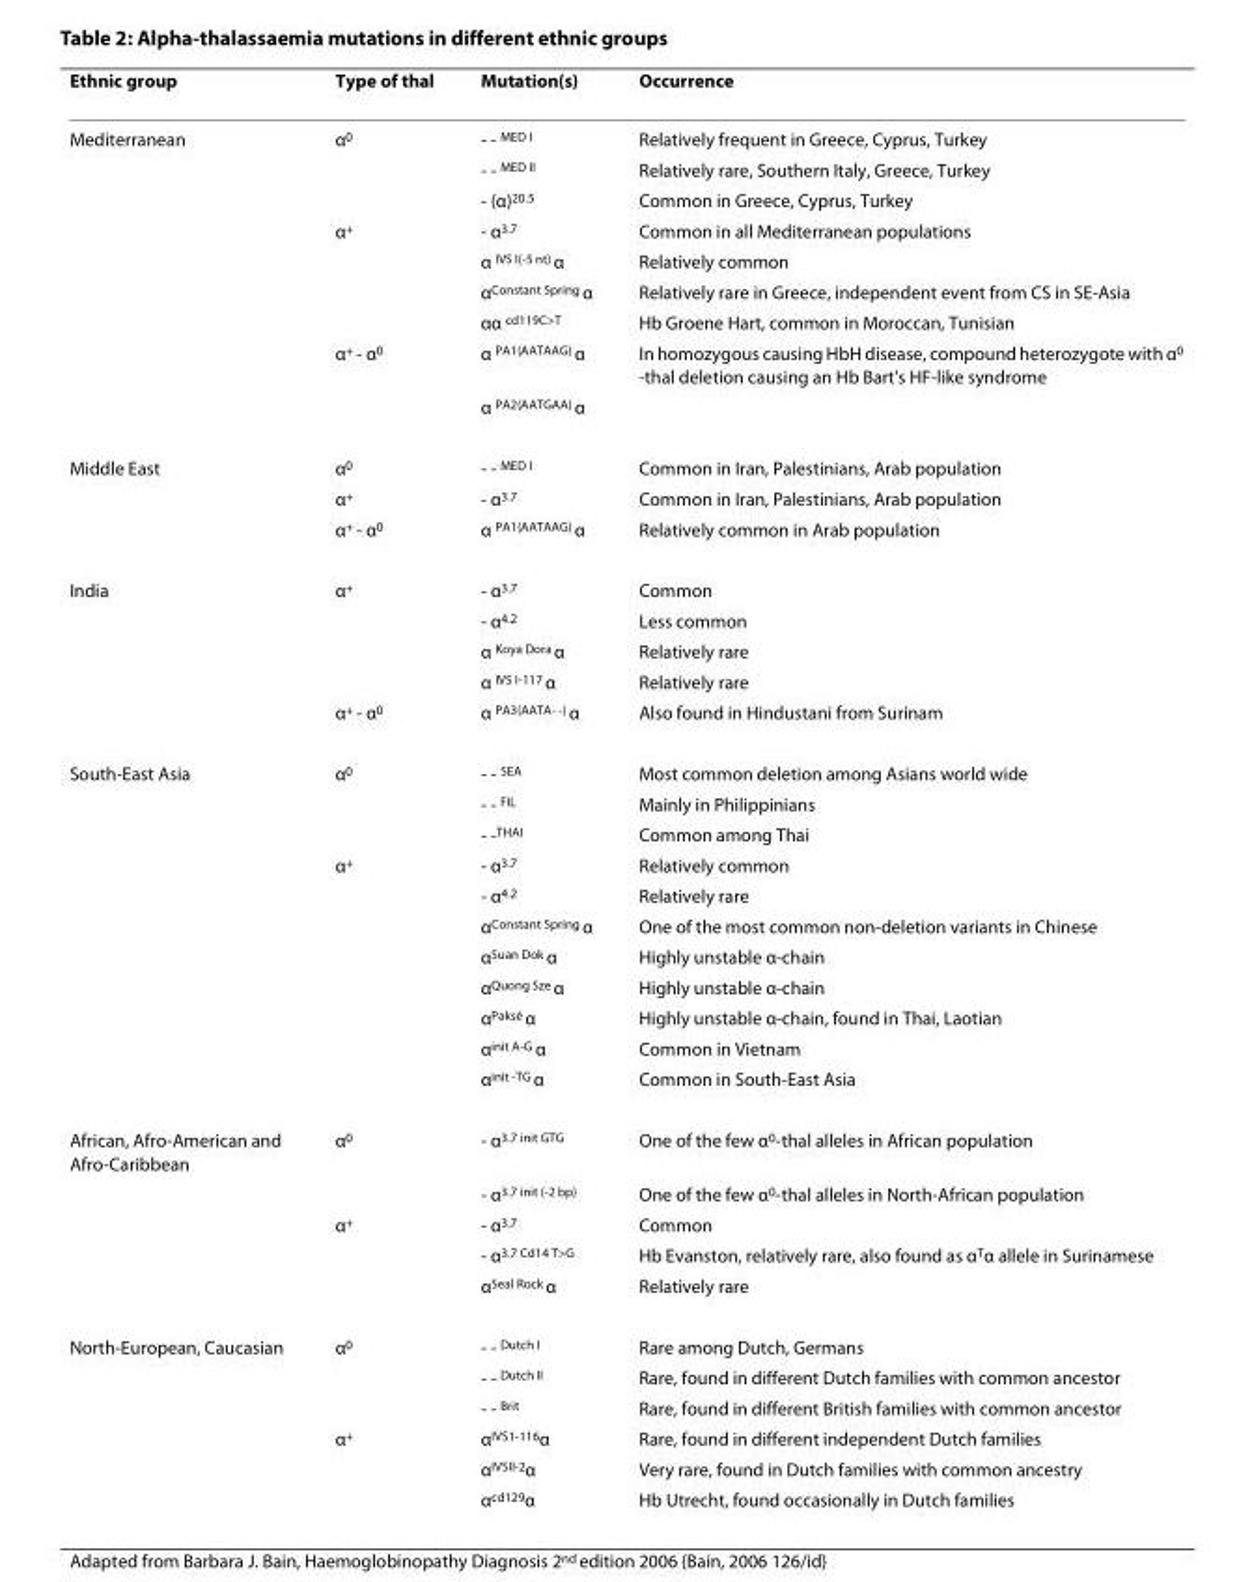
<table><thead><tr><td>Ethnic group</td><td>Type of thal</td><td>Mutation(s)</td><td>Occurrence</td></tr></thead><tbody><tr><td rowspan="9">Mediterranean</td><td>α<sup>0</sup></td><td>- - <sup>MED I</sup></td><td>Relatively frequent in Greece, Cyprus, Turkey</td></tr><tr><td></td><td>- - <sup>MED II</sup></td><td>Relatively rare, Southern Italy, Greece, Turkey</td></tr><tr><td></td><td>- (α)<sup>20.5</sup></td><td>Common in Greece, Cyprus, Turkey</td></tr><tr><td>α<sup>+</sup></td><td>- α<sup>3.7</sup></td><td>Common in all Mediterranean populations</td></tr><tr><td></td><td>α <sup>IVS I(-5 nt)</sup> α</td><td>Relatively common</td></tr><tr><td></td><td>α<sup>Constant Spring</sup> α</td><td>Relatively rare in Greece, independent event from CS in SE-Asia</td></tr><tr><td></td><td>αα <sup>cd119C&gt;T</sup></td><td>Hb Groene Hart, common in Moroccan, Tunisian</td></tr><tr><td>α<sup>+</sup> - α<sup>0</sup></td><td>α <sup>PA1(AATAAG)</sup> α</td><td>In homozygous causing HbH disease, compound heterozygote with α<sup>0</sup> -thal deletion causing an Hb Bart&#x27;s HF-like syndrome</td></tr><tr><td></td><td>α <sup>PA2(AATGAA)</sup> α</td><td></td></tr><tr><td rowspan="3">Middle East</td><td>α<sup>0</sup></td><td>- - <sup>MED I</sup></td><td>Common in Iran, Palestinians, Arab population</td></tr><tr><td>α<sup>+</sup></td><td>- α<sup>3.7</sup></td><td>Common in Iran, Palestinians, Arab population</td></tr><tr><td>α<sup>+</sup> - α<sup>0</sup></td><td>α <sup>PA1(AATAAG)</sup> α</td><td>Relatively common in Arab population</td></tr><tr><td rowspan="5">India</td><td>α<sup>+</sup></td><td>- α<sup>3.7</sup></td><td>Common</td></tr><tr><td></td><td>- α<sup>4.2</sup></td><td>Less common</td></tr><tr><td></td><td>α <sup>Koya Dora</sup> α</td><td>Relatively rare</td></tr><tr><td></td><td>α <sup>IVS I-117</sup> α</td><td>Relatively rare</td></tr><tr><td>α<sup>+</sup> - α<sup>0</sup></td><td>α <sup>PA3(AATA- -)</sup> α</td><td>Also found in Hindustani from Surinam</td></tr><tr><td rowspan="11">South-East Asia</td><td>α<sup>0</sup></td><td>- - <sup>SEA</sup></td><td>Most common deletion among Asians world wide</td></tr><tr><td></td><td>- - <sup>FIL</sup></td><td>Mainly in Philippinians</td></tr><tr><td></td><td>- -<sup>THAI</sup></td><td>Common among Thai</td></tr><tr><td>α<sup>+</sup></td><td>- α<sup>3.7</sup></td><td>Relatively common</td></tr><tr><td></td><td>- α<sup>4.2</sup></td><td>Relatively rare</td></tr><tr><td></td><td>α<sup>Constant Spring</sup> α</td><td>One of the most common non-deletion variants in Chinese</td></tr><tr><td></td><td>α<sup>Suan Dok</sup> α</td><td>Highly unstable α-chain</td></tr><tr><td></td><td>α<sup>Quong Sze</sup> α</td><td>Highly unstable α-chain</td></tr><tr><td></td><td>α<sup>Paksé</sup> α</td><td>Highly unstable α-chain, found in Thai, Laotian</td></tr><tr><td></td><td>α<sup>init A-G</sup> α</td><td>Common in Vietnam</td></tr><tr><td></td><td>α<sup>init -TG</sup> α</td><td>Common in South-East Asia</td></tr><tr><td rowspan="5">African, Afro-American and Afro-Caribbean</td><td>α<sup>0</sup></td><td>- α<sup>3.7 init GTG</sup></td><td>One of the few α<sup>0</sup>-thal alleles in African population</td></tr><tr><td></td><td>- α<sup>3.7 init (-2 bp)</sup></td><td>One of the few α<sup>0</sup>-thal alleles in North-African population</td></tr><tr><td>α<sup>+</sup></td><td>- α<sup>3.7</sup></td><td>Common</td></tr><tr><td></td><td>- α<sup>3.7 Cd14 T&gt;G</sup></td><td>Hb Evanston, relatively rare, also found as α<sup>T</sup>α allele in Surinamese</td></tr><tr><td></td><td>α<sup>Seal Rock</sup> α</td><td>Relatively rare</td></tr><tr><td rowspan="6">North-European, Caucasian</td><td>α<sup>0</sup></td><td>- - <sup>Dutch I</sup></td><td>Rare among Dutch, Germans</td></tr><tr><td></td><td>- - <sup>Dutch II</sup></td><td>Rare, found in different Dutch families with common ancestor</td></tr><tr><td></td><td>- - <sup>Brit</sup></td><td>Rare, found in different British families with common ancestor</td></tr><tr><td>α<sup>+</sup></td><td>α<sup>IVS1-116</sup>α</td><td>Rare, found in different independent Dutch families</td></tr><tr><td></td><td>α<sup>IVSII-2</sup>α</td><td>Very rare, found in Dutch families with common ancestry</td></tr><tr><td></td><td>α<sup>cd129</sup>α</td><td>Hb Utrecht, found occasionally in Dutch families</td></tr></tbody></table>